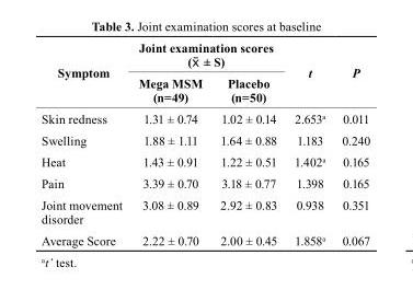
<table><thead><tr><td rowspan="2">symptom</td><td colspan="2">Joint examination scores (X ± S)</td><td rowspan="2">t</td><td rowspan="2">P</td></tr><tr><td>Mega MsM (n=49)</td><td>Placebo (n=50)</td></tr></thead><tbody><tr><td>Skin redness</td><td>1.31 ± 0.74</td><td>1.02 ± 0.14</td><td>2.653<sup>a</sup></td><td>0.011</td></tr><tr><td>Swelling</td><td>1.88 ± 1.11</td><td>1.64 ± 0.88</td><td>1.183</td><td>0.240</td></tr><tr><td>Heat</td><td>1.43 ± 0.91</td><td>1.22 ± 0.51</td><td>1.402<sup>a</sup></td><td>0.165</td></tr><tr><td>Pain</td><td>3.39 ± 0.70</td><td>3.18 ± 0.77</td><td>1.398</td><td>0.165</td></tr><tr><td>Joint movement disorder</td><td>3.08 ± 0.89</td><td>2.92 ± 0.83</td><td>0.938</td><td>0.351</td></tr><tr><td>Average Score</td><td>2.22 ± 0.70</td><td>2.00 ± 0.45</td><td>1.858<sup>a</sup></td><td>0.067</td></tr></tbody></table>